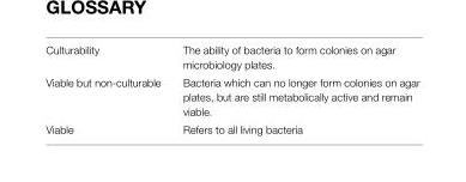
<table><tbody><tr><td>Culturability</td><td>The ability of bacteria to form colonies on agar microbiology plates.</td></tr><tr><td>Viable but non-culturable</td><td>Bacteria which can no longer form colonies on agar plates, but are still metabolically active and remain viable.</td></tr><tr><td>Viable</td><td>Refers to all living bacteria</td></tr></tbody></table>